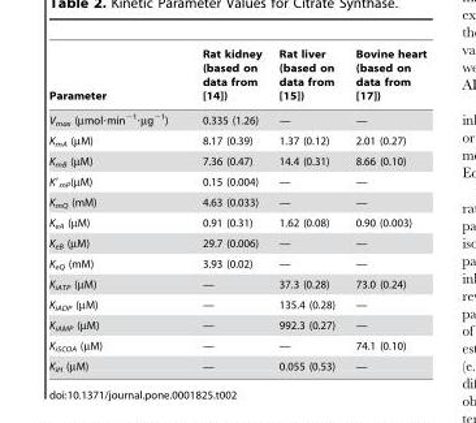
<table><thead><tr><td>Parameter</td><td>Rat kidney (based on data from [14])</td><td>Rat liver (based on data from [15])</td><td>Bovine heart (based on data from [17])</td></tr></thead><tbody><tr><td>V<sub>max</sub> (µmol·min<sup>−1</sup>·µg<sup>−1</sup>)</td><td>0.335 (1.26)</td><td>—</td><td>—</td></tr><tr><td>K<sub>mA</sub> (µM)</td><td>8.17 (0.39)</td><td>1.37 (0.12)</td><td>2.01 (0.27)</td></tr><tr><td>K<sub>mB</sub> (µM)</td><td>7.36 (0.47)</td><td>14.4 (0.31)</td><td>8.66 (0.10)</td></tr><tr><td>K′<sub>mP</sub>(µM)</td><td>0.15 (0.004)</td><td>—</td><td>—</td></tr><tr><td>K<sub>mQ</sub> (mM)</td><td>4.63 (0.033)</td><td>—</td><td>—</td></tr><tr><td>K<sub>eA</sub> (µM)</td><td>0.91 (0.31)</td><td>1.62 (0.08)</td><td>0.90 (0.003)</td></tr><tr><td>K<sub>eB</sub> (µM)</td><td>29.7 (0.006)</td><td>—</td><td>—</td></tr><tr><td>K<sub>eQ</sub> (mM)</td><td>3.93 (0.02)</td><td>—</td><td>—</td></tr><tr><td>K<sub>iATP</sub> (µM)</td><td>—</td><td>37.3 (0.28)</td><td>73.0 (0.24)</td></tr><tr><td>K<sub>iADP</sub> (µM)</td><td>—</td><td>135.4 (0.28)</td><td>—</td></tr><tr><td>K<sub>iAMP</sub> (µM)</td><td>—</td><td>992.3 (0.27)</td><td>—</td></tr><tr><td>K<sub>iSCOA</sub> (µM)</td><td>—</td><td>—</td><td>74.1 (0.10)</td></tr><tr><td>K<sub>iH</sub> (µM)</td><td>—</td><td>0.055 (0.53)</td><td>—</td></tr></tbody></table>